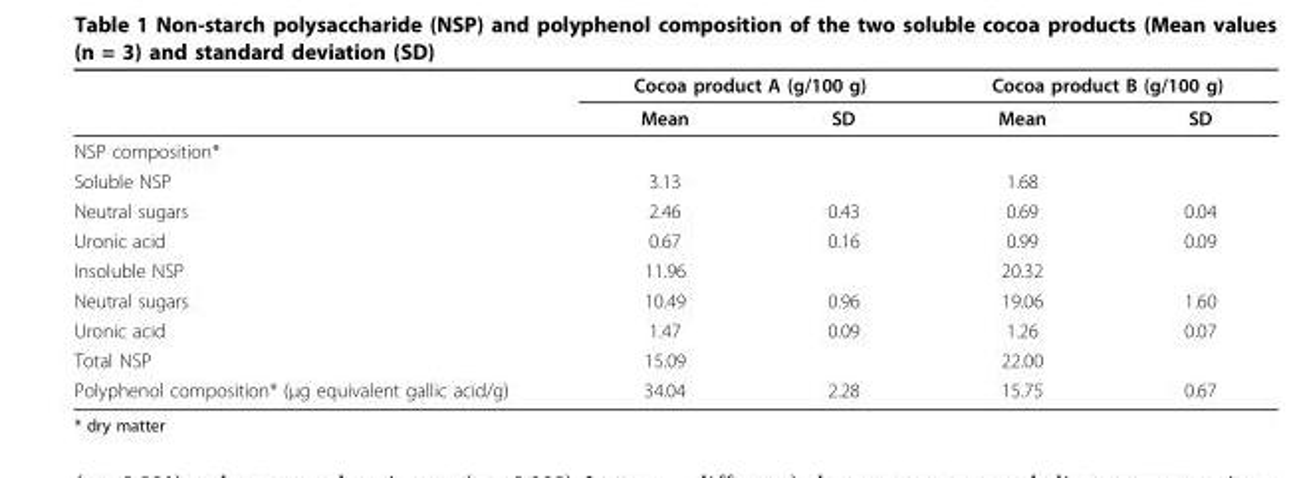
<table><thead><tr><td rowspan="2"></td><td colspan="2">Cocoa product A (g/100 g)</td><td colspan="2">Cocoa product B (g/100 g)</td></tr><tr><td>Mean</td><td>SD</td><td>Mean</td><td>SD</td></tr></thead><tbody><tr><td colspan="5">NSP composition*</td></tr><tr><td>Soluble NSP</td><td>3.13</td><td></td><td>1.68</td><td></td></tr><tr><td>Neutral sugars</td><td>2.46</td><td>0.43</td><td>0.69</td><td>0.04</td></tr><tr><td>Uronic acid</td><td>0.67</td><td>0.16</td><td>0.99</td><td>0.09</td></tr><tr><td>Insoluble NSP</td><td>11.96</td><td></td><td>20.32</td><td></td></tr><tr><td>Neutral sugars</td><td>10.49</td><td>0.96</td><td>19.06</td><td>1.60</td></tr><tr><td>Uronic acid</td><td>1.47</td><td>0.09</td><td>1.26</td><td>0.07</td></tr><tr><td>Total NSP</td><td>15.09</td><td></td><td>22.00</td><td></td></tr><tr><td>Polyphenol composition* (μg equivalent gallic acid/g)</td><td>34.04</td><td>2.28</td><td>15.75</td><td>0.67</td></tr></tbody></table>